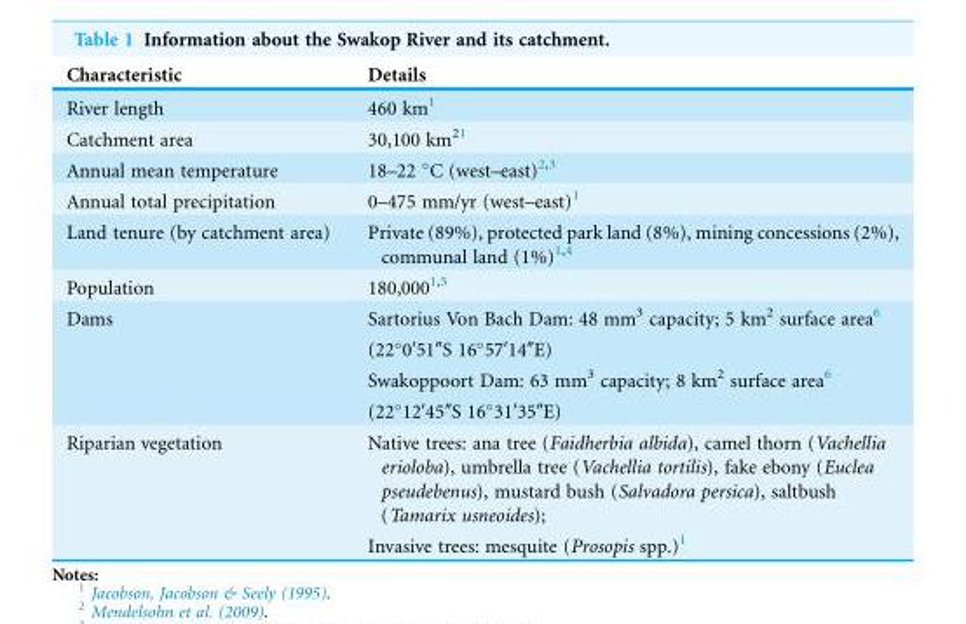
<table><thead><tr><td>Characteristic</td><td>Details</td></tr></thead><tbody><tr><td>River length</td><td>460 km<sup>1</sup></td></tr><tr><td>Catchment area</td><td>30,100 km<sup>21</sup></td></tr><tr><td>Annual mean temperature</td><td>18–22 °C (west–east)<sup>2,3</sup></td></tr><tr><td>Annual total precipitation</td><td>0–475 mm/yr (west–east)<sup>1</sup></td></tr><tr><td>Land tenure (by catchment area)</td><td>Private (89%), protected park land (8%), mining concessions (2%), communal land (1%)<sup>1,4</sup></td></tr><tr><td>Population</td><td>180,000<sup>1,5</sup></td></tr><tr><td rowspan="4">Dams</td><td>Sartorius Von Bach Dam: 48 mm<sup>3</sup> capacity; 5 km<sup>2</sup> surface area<sup>6</sup></td></tr><tr><td>(22°0′51″S 16°57′14″E)</td></tr><tr><td>Swakoppoort Dam: 63 mm<sup>3</sup> capacity; 8 km<sup>2</sup> surface area<sup>6</sup></td></tr><tr><td>(22°12′45″S 16°31′35″E)</td></tr><tr><td rowspan="2">Riparian vegetation</td><td>Native trees: ana tree (Faidherbia albida), camel thorn (Vachellia erioloba), umbrella tree (Vachellia tortilis), fake ebony (Euclea pseudebenus), mustard bush (Salvadora persica), saltbush (Tamarix usneoides);</td></tr><tr><td>Invasive trees: mesquite (Prosopis spp.)<sup>1</sup></td></tr></tbody></table>